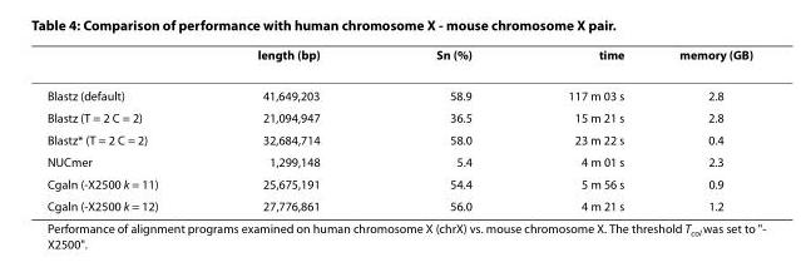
<table><thead><tr><td></td><td>length (bp)</td><td>Sn (%)</td><td>time</td><td>memory (GB)</td></tr></thead><tbody><tr><td>Blastz (default)</td><td>41,649,203</td><td>58.9</td><td>117 m 03 s</td><td>2.8</td></tr><tr><td>Blastz (T = 2 C = 2)</td><td>21,094,947</td><td>36.5</td><td>15 m 21 s</td><td>2.8</td></tr><tr><td>Blastz* (T = 2 C = 2)</td><td>32,684,714</td><td>58.0</td><td>23 m 22 s</td><td>0.4</td></tr><tr><td>NUCmer</td><td>1,299,148</td><td>5.4</td><td>4 m 01 s</td><td>2.3</td></tr><tr><td>Cgaln (-X2500 k = 11)</td><td>25,675,191</td><td>54.4</td><td>5 m 56 s</td><td>0.9</td></tr><tr><td>Cgaln (-X2500 k = 12)</td><td>27,776,861</td><td>56.0</td><td>4 m 21 s</td><td>1.2</td></tr></tbody></table>